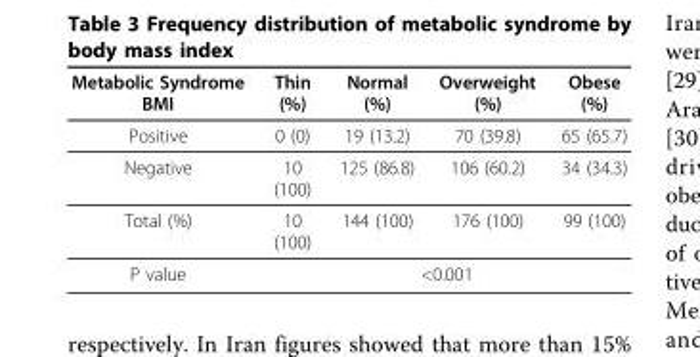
<table><thead><tr><td>Metabolic Syndrome BMI</td><td>Thin (%)</td><td>Normal (%)</td><td>Overweight (%)</td><td>Obese (%)</td></tr></thead><tbody><tr><td>Positive</td><td>0 (0)</td><td>19 (13.2)</td><td>70 (39.8)</td><td>65 (65.7)</td></tr><tr><td>Negative</td><td>10 (100)</td><td>125 (86.8)</td><td>106 (60.2)</td><td>34 (34.3)</td></tr><tr><td>Total (%)</td><td>10 (100)</td><td>144 (100)</td><td>176 (100)</td><td>99 (100)</td></tr><tr><td>P value</td><td colspan="4">&lt;0.001</td></tr></tbody></table>